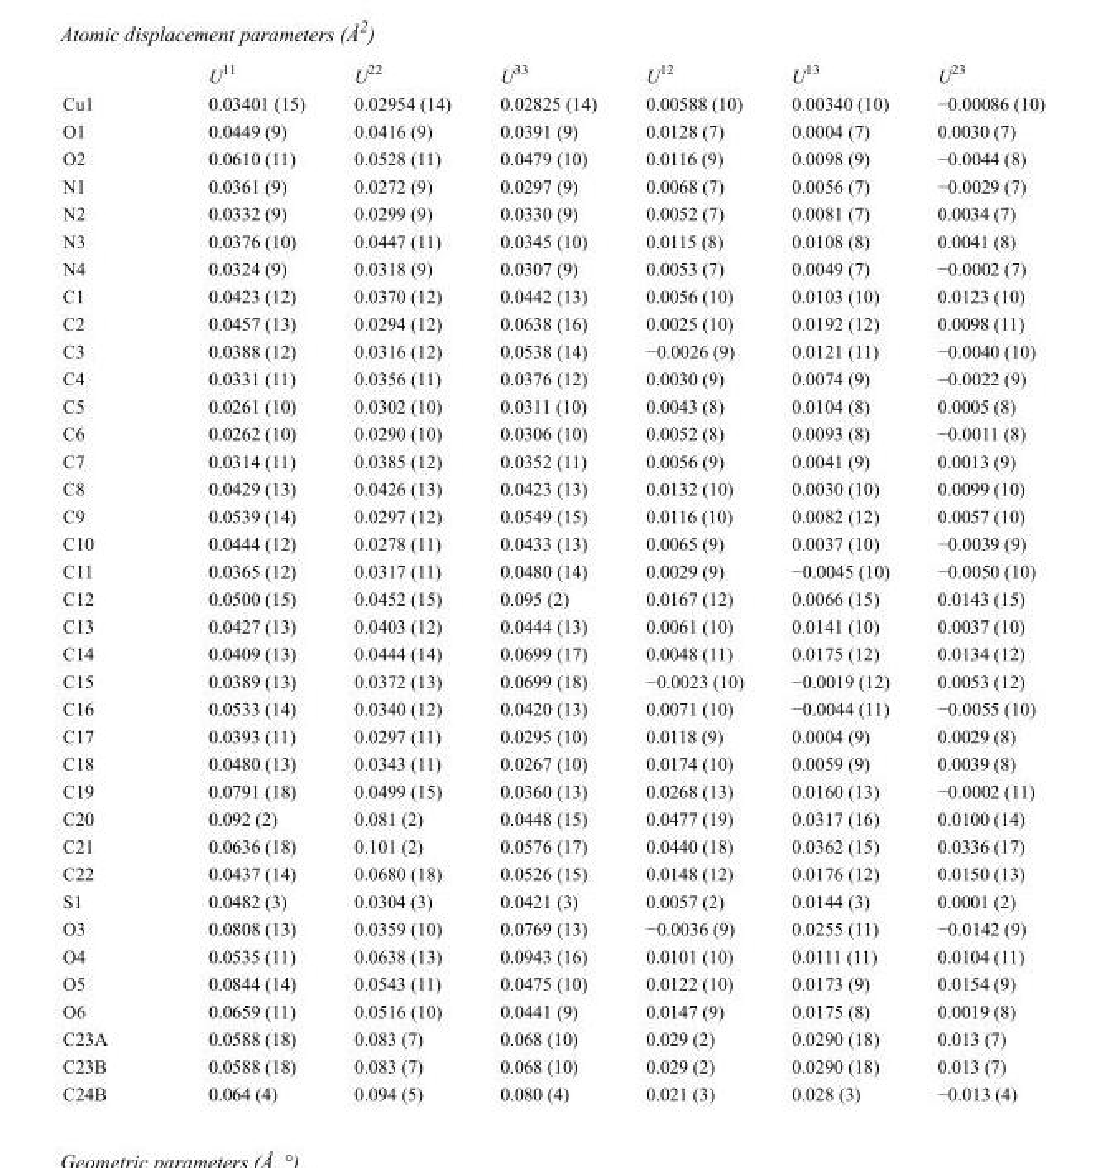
<table><thead><tr><td></td><td>U<sup>11</sup></td><td>U<sup>22</sup></td><td>U<sup>33</sup></td><td>U<sup>12</sup></td><td>U<sup>13</sup></td><td>U<sup>23</sup></td></tr></thead><tbody><tr><td>Cu1</td><td>0.03401 (15)</td><td>0.02954 (14)</td><td>0.02825 (14)</td><td>0.00588 (10)</td><td>0.00340 (10)</td><td>−0.00086 (10)</td></tr><tr><td>O1</td><td>0.0449 (9)</td><td>0.0416 (9)</td><td>0.0391 (9)</td><td>0.0128 (7)</td><td>0.0004 (7)</td><td>0.0030 (7)</td></tr><tr><td>O2</td><td>0.0610 (11)</td><td>0.0528 (11)</td><td>0.0479 (10)</td><td>0.0116 (9)</td><td>0.0098 (9)</td><td>−0.0044 (8)</td></tr><tr><td>N1</td><td>0.0361 (9)</td><td>0.0272 (9)</td><td>0.0297 (9)</td><td>0.0068 (7)</td><td>0.0056 (7)</td><td>−0.0029 (7)</td></tr><tr><td>N2</td><td>0.0332 (9)</td><td>0.0299 (9)</td><td>0.0330 (9)</td><td>0.0052 (7)</td><td>0.0081 (7)</td><td>0.0034 (7)</td></tr><tr><td>N3</td><td>0.0376 (10)</td><td>0.0447 (11)</td><td>0.0345 (10)</td><td>0.0115 (8)</td><td>0.0108 (8)</td><td>0.0041 (8)</td></tr><tr><td>N4</td><td>0.0324 (9)</td><td>0.0318 (9)</td><td>0.0307 (9)</td><td>0.0053 (7)</td><td>0.0049 (7)</td><td>−0.0002 (7)</td></tr><tr><td>C1</td><td>0.0423 (12)</td><td>0.0370 (12)</td><td>0.0442 (13)</td><td>0.0056 (10)</td><td>0.0103 (10)</td><td>0.0123 (10)</td></tr><tr><td>C2</td><td>0.0457 (13)</td><td>0.0294 (12)</td><td>0.0638 (16)</td><td>0.0025 (10)</td><td>0.0192 (12)</td><td>0.0098 (11)</td></tr><tr><td>C3</td><td>0.0388 (12)</td><td>0.0316 (12)</td><td>0.0538 (14)</td><td>−0.0026 (9)</td><td>0.0121 (11)</td><td>−0.0040 (10)</td></tr><tr><td>C4</td><td>0.0331 (11)</td><td>0.0356 (11)</td><td>0.0376 (12)</td><td>0.0030 (9)</td><td>0.0074 (9)</td><td>−0.0022 (9)</td></tr><tr><td>C5</td><td>0.0261 (10)</td><td>0.0302 (10)</td><td>0.0311 (10)</td><td>0.0043 (8)</td><td>0.0104 (8)</td><td>0.0005 (8)</td></tr><tr><td>C6</td><td>0.0262 (10)</td><td>0.0290 (10)</td><td>0.0306 (10)</td><td>0.0052 (8)</td><td>0.0093 (8)</td><td>−0.0011 (8)</td></tr><tr><td>C7</td><td>0.0314 (11)</td><td>0.0385 (12)</td><td>0.0352 (11)</td><td>0.0056 (9)</td><td>0.0041 (9)</td><td>0.0013 (9)</td></tr><tr><td>C8</td><td>0.0429 (13)</td><td>0.0426 (13)</td><td>0.0423 (13)</td><td>0.0132 (10)</td><td>0.0030 (10)</td><td>0.0099 (10)</td></tr><tr><td>C9</td><td>0.0539 (14)</td><td>0.0297 (12)</td><td>0.0549 (15)</td><td>0.0116 (10)</td><td>0.0082 (12)</td><td>0.0057 (10)</td></tr><tr><td>C10</td><td>0.0444 (12)</td><td>0.0278 (11)</td><td>0.0433 (13)</td><td>0.0065 (9)</td><td>0.0037 (10)</td><td>−0.0039 (9)</td></tr><tr><td>C11</td><td>0.0365 (12)</td><td>0.0317 (11)</td><td>0.0480 (14)</td><td>0.0029 (9)</td><td>−0.0045 (10)</td><td>−0.0050 (10)</td></tr><tr><td>C12</td><td>0.0500 (15)</td><td>0.0452 (15)</td><td>0.095 (2)</td><td>0.0167 (12)</td><td>0.0066 (15)</td><td>0.0143 (15)</td></tr><tr><td>C13</td><td>0.0427 (13)</td><td>0.0403 (12)</td><td>0.0444 (13)</td><td>0.0061 (10)</td><td>0.0141 (10)</td><td>0.0037 (10)</td></tr><tr><td>C14</td><td>0.0409 (13)</td><td>0.0444 (14)</td><td>0.0699 (17)</td><td>0.0048 (11)</td><td>0.0175 (12)</td><td>0.0134 (12)</td></tr><tr><td>C15</td><td>0.0389 (13)</td><td>0.0372 (13)</td><td>0.0699 (18)</td><td>−0.0023 (10)</td><td>−0.0019 (12)</td><td>0.0053 (12)</td></tr><tr><td>C16</td><td>0.0533 (14)</td><td>0.0340 (12)</td><td>0.0420 (13)</td><td>0.0071 (10)</td><td>−0.0044 (11)</td><td>−0.0055 (10)</td></tr><tr><td>C17</td><td>0.0393 (11)</td><td>0.0297 (11)</td><td>0.0295 (10)</td><td>0.0118 (9)</td><td>0.0004 (9)</td><td>0.0029 (8)</td></tr><tr><td>C18</td><td>0.0480 (13)</td><td>0.0343 (11)</td><td>0.0267 (10)</td><td>0.0174 (10)</td><td>0.0059 (9)</td><td>0.0039 (8)</td></tr><tr><td>C19</td><td>0.0791 (18)</td><td>0.0499 (15)</td><td>0.0360 (13)</td><td>0.0268 (13)</td><td>0.0160 (13)</td><td>−0.0002 (11)</td></tr><tr><td>C20</td><td>0.092 (2)</td><td>0.081 (2)</td><td>0.0448 (15)</td><td>0.0477 (19)</td><td>0.0317 (16)</td><td>0.0100 (14)</td></tr><tr><td>C21</td><td>0.0636 (18)</td><td>0.101 (2)</td><td>0.0576 (17)</td><td>0.0440 (18)</td><td>0.0362 (15)</td><td>0.0336 (17)</td></tr><tr><td>C22</td><td>0.0437 (14)</td><td>0.0680 (18)</td><td>0.0526 (15)</td><td>0.0148 (12)</td><td>0.0176 (12)</td><td>0.0150 (13)</td></tr><tr><td>S1</td><td>0.0482 (3)</td><td>0.0304 (3)</td><td>0.0421 (3)</td><td>0.0057 (2)</td><td>0.0144 (3)</td><td>0.0001 (2)</td></tr><tr><td>O3</td><td>0.0808 (13)</td><td>0.0359 (10)</td><td>0.0769 (13)</td><td>−0.0036 (9)</td><td>0.0255 (11)</td><td>−0.0142 (9)</td></tr><tr><td>O4</td><td>0.0535 (11)</td><td>0.0638 (13)</td><td>0.0943 (16)</td><td>0.0101 (10)</td><td>0.0111 (11)</td><td>0.0104 (11)</td></tr><tr><td>O5</td><td>0.0844 (14)</td><td>0.0543 (11)</td><td>0.0475 (10)</td><td>0.0122 (10)</td><td>0.0173 (9)</td><td>0.0154 (9)</td></tr><tr><td>O6</td><td>0.0659 (11)</td><td>0.0516 (10)</td><td>0.0441 (9)</td><td>0.0147 (9)</td><td>0.0175 (8)</td><td>0.0019 (8)</td></tr><tr><td>C23A</td><td>0.0588 (18)</td><td>0.083 (7)</td><td>0.068 (10)</td><td>0.029 (2)</td><td>0.0290 (18)</td><td>0.013 (7)</td></tr><tr><td>C23B</td><td>0.0588 (18)</td><td>0.083 (7)</td><td>0.068 (10)</td><td>0.029 (2)</td><td>0.0290 (18)</td><td>0.013 (7)</td></tr><tr><td>C24B</td><td>0.064 (4)</td><td>0.094 (5)</td><td>0.080 (4)</td><td>0.021 (3)</td><td>0.028 (3)</td><td>−0.013 (4)</td></tr></tbody></table>